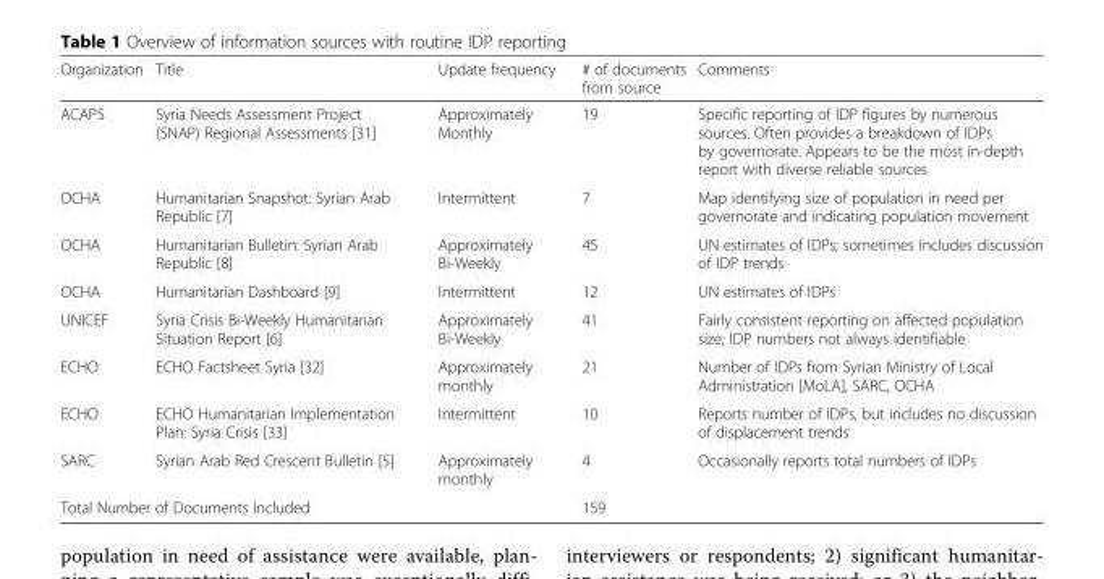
<table><thead><tr><td>Organization</td><td>Title</td><td>Update frequency</td><td># of documents from source</td><td>Comments</td></tr></thead><tbody><tr><td>ACAPS</td><td>Syria Needs Assessment Project (SNAP) Regional Assessments [31]</td><td>Approximately Monthly</td><td>19</td><td>Specific reporting of IDP figures by numerous sources. Often provides a breakdown of IDPs by governorate. Appears to be the most in-depth report with diverse reliable sources</td></tr><tr><td>OCHA</td><td>Humanitarian Snapshot: Syrian Arab Republic [7]</td><td>Intermittent</td><td>7</td><td>Map identifying size of population in need per governorate and indicating population movement</td></tr><tr><td>OCHA</td><td>Humanitarian Bulletin: Syrian Arab Republic [8]</td><td>Approximately Bi-Weekly</td><td>45</td><td>UN estimates of IDPs; sometimes includes discussion of IDP trends</td></tr><tr><td>OCHA</td><td>Humanitarian Dashboard [9]</td><td>Intermittent</td><td>12</td><td>UN estimates of IDPs</td></tr><tr><td>UNICEF</td><td>Syria Crisis Bi-Weekly Humanitarian Situation Report [6]</td><td>Approximately Bi-Weekly</td><td>41</td><td>Fairly consistent reporting on affected population size; IDP numbers not always identifiable</td></tr><tr><td>ECHO</td><td>ECHO Factsheet Syria [32]</td><td>Approximately monthly</td><td>21</td><td>Number of IDPs from Syrian Ministry of Local Administration [MoLA], SARC, OCHA</td></tr><tr><td>ECHO</td><td>ECHO Humanitarian Implementation Plan: Syria Crisis [33]</td><td>Intermittent</td><td>10</td><td>Reports number of IDPs, but includes no discussion of displacement trends</td></tr><tr><td>SARC</td><td>Syrian Arab Red Crescent Bulletin [5]</td><td>Approximately monthly</td><td>4</td><td>Occasionally reports total numbers of IDPs</td></tr><tr><td colspan="3">Total Number of Documents Included</td><td>159</td><td></td></tr></tbody></table>